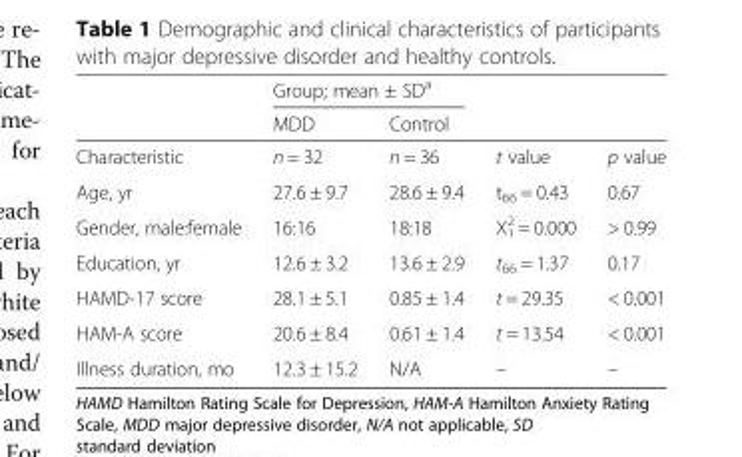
<table><thead><tr><td rowspan="2"></td><td colspan="2">Group; mean ± SD<sup>a</sup></td><td rowspan="2"></td><td rowspan="2"></td></tr><tr><td>MDD</td><td>Control</td></tr></thead><tbody><tr><td>Characteristic</td><td>n = 32</td><td>n = 36</td><td>t value</td><td>p value</td></tr><tr><td>Age, yr</td><td>27.6 ± 9.7</td><td>28.6 ± 9.4</td><td>t<sub>66</sub> = 0.43</td><td>0.67</td></tr><tr><td>Gender, male:female</td><td>16:16</td><td>18:18</td><td>Χ<sup>2</sup> <sub>1</sub> = 0.000</td><td>&gt; 0.99</td></tr><tr><td>Education, yr</td><td>12.6 ± 3.2</td><td>13.6 ± 2.9</td><td>t<sub>66</sub> = 1.37</td><td>0.17</td></tr><tr><td>HAMD-17 score</td><td>28.1 ± 5.1</td><td>0.85 ± 1.4</td><td>t = 29.35</td><td>&lt; 0.001</td></tr><tr><td>HAM-A score</td><td>20.6 ± 8.4</td><td>0.61 ± 1.4</td><td>t = 13.54</td><td>&lt; 0.001</td></tr><tr><td>Illness duration, mo</td><td>12.3 ± 15.2</td><td>N/A</td><td>–</td><td>–</td></tr></tbody></table>